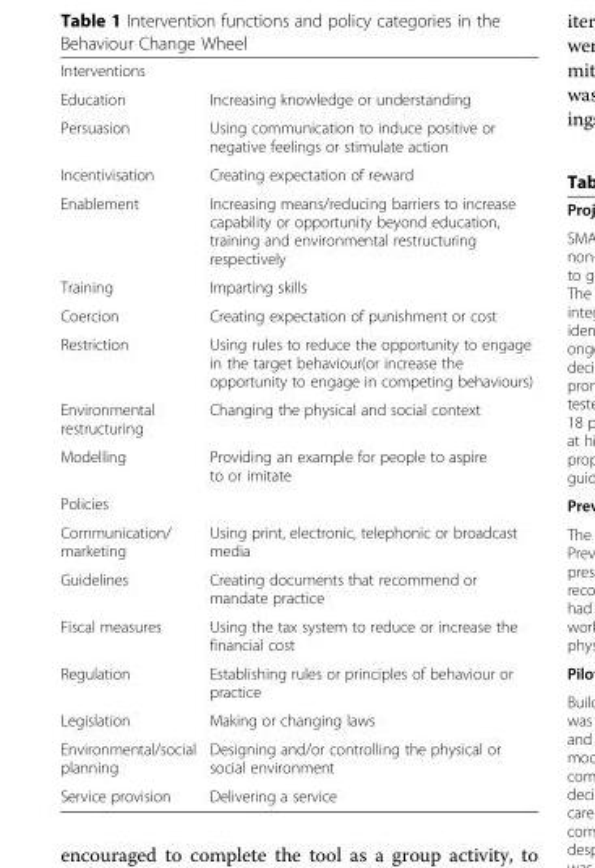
<table><tbody><tr><td colspan="2">Interventions</td></tr><tr><td>Education</td><td>Increasing knowledge or understanding</td></tr><tr><td>Persuasion</td><td>Using communication to induce positive or negative feelings or stimulate action</td></tr><tr><td>Incentivisation</td><td>Creating expectation of reward</td></tr><tr><td>Enablement</td><td>Increasing means/reducing barriers to increase capability or opportunity beyond education, training and environmental restructuring respectively</td></tr><tr><td>Training</td><td>Imparting skills</td></tr><tr><td>Coercion</td><td>Creating expectation of punishment or cost</td></tr><tr><td>Restriction</td><td>Using rules to reduce the opportunity to engage in the target behaviour(or increase the opportunity to engage in competing behaviours)</td></tr><tr><td>Environmental restructuring</td><td>Changing the physical and social context</td></tr><tr><td>Modelling</td><td>Providing an example for people to aspire to or imitate</td></tr><tr><td colspan="2">Policies</td></tr><tr><td>Communication/ marketing</td><td>Using print, electronic, telephonic or broadcast media</td></tr><tr><td>Guidelines</td><td>Creating documents that recommend or mandate practice</td></tr><tr><td>Fiscal measures</td><td>Using the tax system to reduce or increase the financial cost</td></tr><tr><td>Regulation</td><td>Establishing rules or principles of behaviour or practice</td></tr><tr><td>Legislation</td><td>Making or changing laws</td></tr><tr><td>Environmental/social planning</td><td>Designing and/or controlling the physical or social environment</td></tr><tr><td>Service provision</td><td>Delivering a service</td></tr></tbody></table>